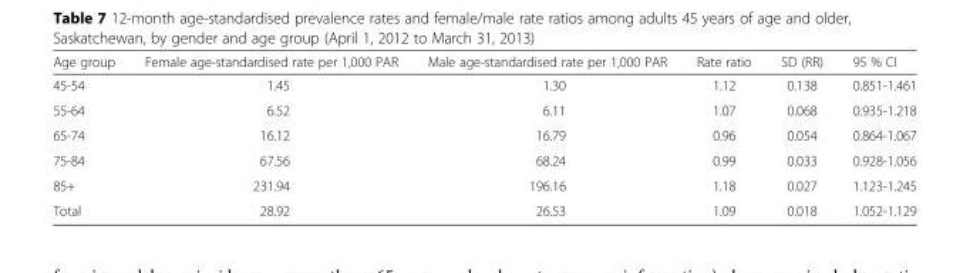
<table><thead><tr><td>Age group</td><td>Female age-standardised rate per 1,000 PAR</td><td>Male age-standardised rate per 1,000 PAR</td><td>Rate ratio</td><td>SD (RR)</td><td>95 % CI</td></tr></thead><tbody><tr><td>45-54</td><td>1.45</td><td>1.30</td><td>1.12</td><td>0.138</td><td>0.851-1.461</td></tr><tr><td>55-64</td><td>6.52</td><td>6.11</td><td>1.07</td><td>0.068</td><td>0.935-1.218</td></tr><tr><td>65-74</td><td>16.12</td><td>16.79</td><td>0.96</td><td>0.054</td><td>0.864-1.067</td></tr><tr><td>75-84</td><td>67.56</td><td>68.24</td><td>0.99</td><td>0.033</td><td>0.928-1.056</td></tr><tr><td>85+</td><td>231.94</td><td>196.16</td><td>1.18</td><td>0.027</td><td>1.123-1.245</td></tr><tr><td>Total</td><td>28.92</td><td>26.53</td><td>1.09</td><td>0.018</td><td>1.052-1.129</td></tr></tbody></table>